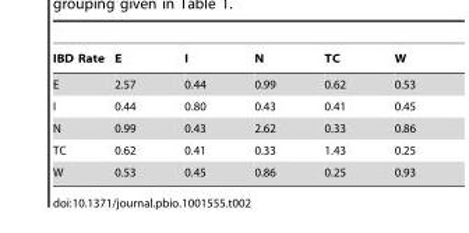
<table><thead><tr><td>IBD Rate</td><td>E</td><td>I</td><td>N</td><td>TC</td><td>W</td></tr></thead><tbody><tr><td>E</td><td>2.57</td><td>0.44</td><td>0.99</td><td>0.62</td><td>0.53</td></tr><tr><td>I</td><td>0.44</td><td>0.80</td><td>0.43</td><td>0.41</td><td>0.45</td></tr><tr><td>N</td><td>0.99</td><td>0.43</td><td>2.62</td><td>0.33</td><td>0.86</td></tr><tr><td>TC</td><td>0.62</td><td>0.41</td><td>0.33</td><td>1.43</td><td>0.25</td></tr><tr><td>W</td><td>0.53</td><td>0.45</td><td>0.86</td><td>0.25</td><td>0.93</td></tr></tbody></table>